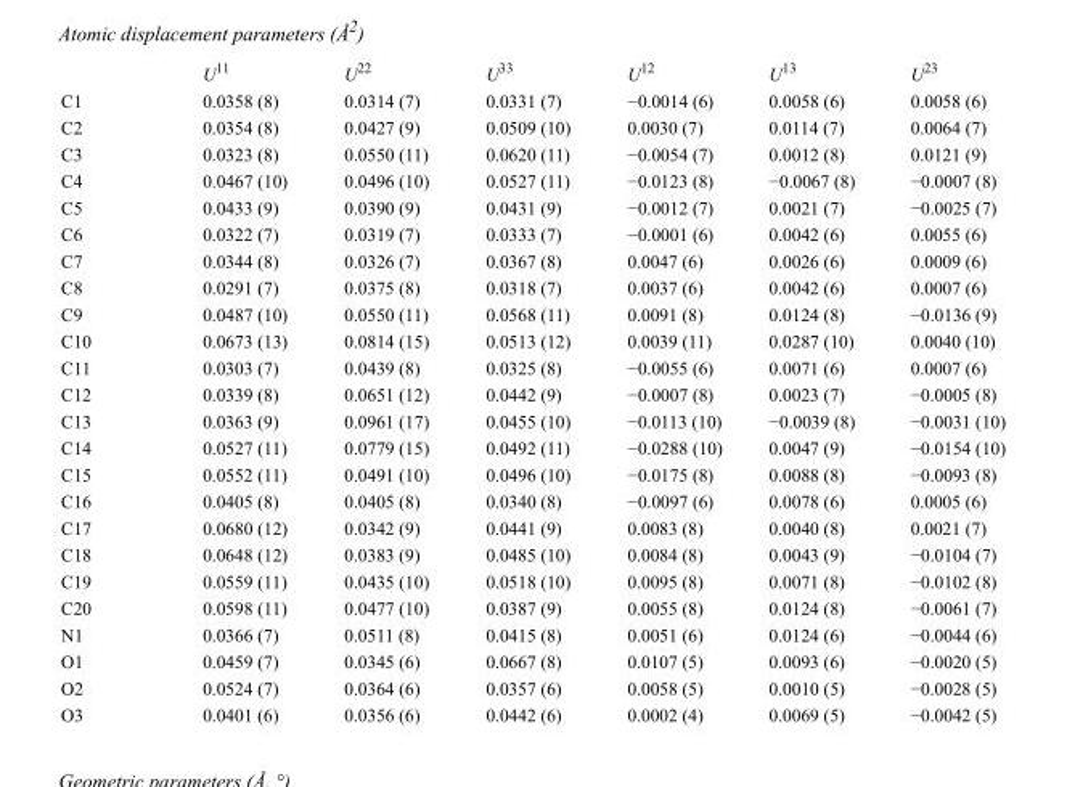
<table><thead><tr><td></td><td>U<sup>11</sup></td><td>U<sup>22</sup></td><td>U<sup>33</sup></td><td>U<sup>12</sup></td><td>U<sup>13</sup></td><td>U<sup>23</sup></td></tr></thead><tbody><tr><td>C1</td><td>0.0358 (8)</td><td>0.0314 (7)</td><td>0.0331 (7)</td><td>−0.0014 (6)</td><td>0.0058 (6)</td><td>0.0058 (6)</td></tr><tr><td>C2</td><td>0.0354 (8)</td><td>0.0427 (9)</td><td>0.0509 (10)</td><td>0.0030 (7)</td><td>0.0114 (7)</td><td>0.0064 (7)</td></tr><tr><td>C3</td><td>0.0323 (8)</td><td>0.0550 (11)</td><td>0.0620 (11)</td><td>−0.0054 (7)</td><td>0.0012 (8)</td><td>0.0121 (9)</td></tr><tr><td>C4</td><td>0.0467 (10)</td><td>0.0496 (10)</td><td>0.0527 (11)</td><td>−0.0123 (8)</td><td>−0.0067 (8)</td><td>−0.0007 (8)</td></tr><tr><td>C5</td><td>0.0433 (9)</td><td>0.0390 (9)</td><td>0.0431 (9)</td><td>−0.0012 (7)</td><td>0.0021 (7)</td><td>−0.0025 (7)</td></tr><tr><td>C6</td><td>0.0322 (7)</td><td>0.0319 (7)</td><td>0.0333 (7)</td><td>−0.0001 (6)</td><td>0.0042 (6)</td><td>0.0055 (6)</td></tr><tr><td>C7</td><td>0.0344 (8)</td><td>0.0326 (7)</td><td>0.0367 (8)</td><td>0.0047 (6)</td><td>0.0026 (6)</td><td>0.0009 (6)</td></tr><tr><td>C8</td><td>0.0291 (7)</td><td>0.0375 (8)</td><td>0.0318 (7)</td><td>0.0037 (6)</td><td>0.0042 (6)</td><td>0.0007 (6)</td></tr><tr><td>C9</td><td>0.0487 (10)</td><td>0.0550 (11)</td><td>0.0568 (11)</td><td>0.0091 (8)</td><td>0.0124 (8)</td><td>−0.0136 (9)</td></tr><tr><td>C10</td><td>0.0673 (13)</td><td>0.0814 (15)</td><td>0.0513 (12)</td><td>0.0039 (11)</td><td>0.0287 (10)</td><td>0.0040 (10)</td></tr><tr><td>C11</td><td>0.0303 (7)</td><td>0.0439 (8)</td><td>0.0325 (8)</td><td>−0.0055 (6)</td><td>0.0071 (6)</td><td>0.0007 (6)</td></tr><tr><td>C12</td><td>0.0339 (8)</td><td>0.0651 (12)</td><td>0.0442 (9)</td><td>−0.0007 (8)</td><td>0.0023 (7)</td><td>−0.0005 (8)</td></tr><tr><td>C13</td><td>0.0363 (9)</td><td>0.0961 (17)</td><td>0.0455 (10)</td><td>−0.0113 (10)</td><td>−0.0039 (8)</td><td>−0.0031 (10)</td></tr><tr><td>C14</td><td>0.0527 (11)</td><td>0.0779 (15)</td><td>0.0492 (11)</td><td>−0.0288 (10)</td><td>0.0047 (9)</td><td>−0.0154 (10)</td></tr><tr><td>C15</td><td>0.0552 (11)</td><td>0.0491 (10)</td><td>0.0496 (10)</td><td>−0.0175 (8)</td><td>0.0088 (8)</td><td>−0.0093 (8)</td></tr><tr><td>C16</td><td>0.0405 (8)</td><td>0.0405 (8)</td><td>0.0340 (8)</td><td>−0.0097 (6)</td><td>0.0078 (6)</td><td>0.0005 (6)</td></tr><tr><td>C17</td><td>0.0680 (12)</td><td>0.0342 (9)</td><td>0.0441 (9)</td><td>0.0083 (8)</td><td>0.0040 (8)</td><td>0.0021 (7)</td></tr><tr><td>C18</td><td>0.0648 (12)</td><td>0.0383 (9)</td><td>0.0485 (10)</td><td>0.0084 (8)</td><td>0.0043 (9)</td><td>−0.0104 (7)</td></tr><tr><td>C19</td><td>0.0559 (11)</td><td>0.0435 (10)</td><td>0.0518 (10)</td><td>0.0095 (8)</td><td>0.0071 (8)</td><td>−0.0102 (8)</td></tr><tr><td>C20</td><td>0.0598 (11)</td><td>0.0477 (10)</td><td>0.0387 (9)</td><td>0.0055 (8)</td><td>0.0124 (8)</td><td>−0.0061 (7)</td></tr><tr><td>N1</td><td>0.0366 (7)</td><td>0.0511 (8)</td><td>0.0415 (8)</td><td>0.0051 (6)</td><td>0.0124 (6)</td><td>−0.0044 (6)</td></tr><tr><td>O1</td><td>0.0459 (7)</td><td>0.0345 (6)</td><td>0.0667 (8)</td><td>0.0107 (5)</td><td>0.0093 (6)</td><td>−0.0020 (5)</td></tr><tr><td>O2</td><td>0.0524 (7)</td><td>0.0364 (6)</td><td>0.0357 (6)</td><td>0.0058 (5)</td><td>0.0010 (5)</td><td>−0.0028 (5)</td></tr><tr><td>O3</td><td>0.0401 (6)</td><td>0.0356 (6)</td><td>0.0442 (6)</td><td>0.0002 (4)</td><td>0.0069 (5)</td><td>−0.0042 (5)</td></tr></tbody></table>